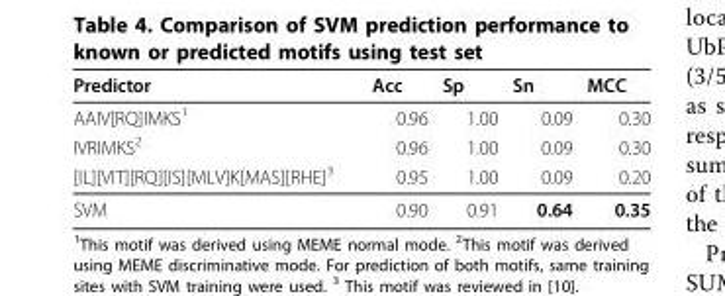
<table><thead><tr><td>Predictor</td><td>Acc</td><td>Sp</td><td>Sn</td><td>MCC</td></tr></thead><tbody><tr><td>AAIV[RQ]IMKS<sup>1</sup></td><td>0.96</td><td>1.00</td><td>0.09</td><td>0.30</td></tr><tr><td>IVRIMKS<sup>2</sup></td><td>0.96</td><td>1.00</td><td>0.09</td><td>0.30</td></tr><tr><td>[IL][VIT][RQ][IS][MLV]K[MAS][RHE]<sup>3</sup></td><td>0.95</td><td>1.00</td><td>0.09</td><td>0.20</td></tr><tr><td>SVM</td><td>0.90</td><td>0.91</td><td>0.64</td><td>0.35</td></tr></tbody></table>